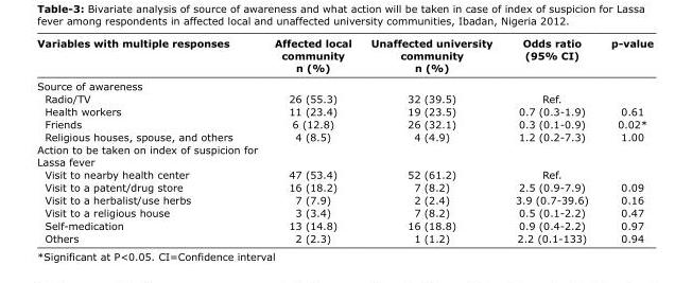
<table><thead><tr><td>Variables with multiple responses</td><td>Affected local community n (%)</td><td>Unaffected university community n (%)</td><td>Odds ratio (95% CI)</td><td>p-value</td></tr></thead><tbody><tr><td colspan="5">Source of awareness</td></tr><tr><td>Radio/TV</td><td>26 (55.3)</td><td>32 (39.5)</td><td>Ref.</td><td></td></tr><tr><td>Health workers</td><td>11 (23.4)</td><td>19 (23.5)</td><td>0.7 (0.3-1.9)</td><td>0.61</td></tr><tr><td>Friends</td><td>6 (12.8)</td><td>26 (32.1)</td><td>0.3 (0.1-0.9)</td><td>0.02*</td></tr><tr><td>Religious houses, spouse, and others</td><td>4 (8.5)</td><td>4 (4.9)</td><td>1.2 (0.2-7.3)</td><td>1.00</td></tr><tr><td colspan="5">Action to be taken on index of suspicion for Lassa fever</td></tr><tr><td>Visit to nearby health center</td><td>47 (53.4)</td><td>52 (61.2)</td><td>Ref.</td><td></td></tr><tr><td>Visit to a patent/drug store</td><td>16 (18.2)</td><td>7 (8.2)</td><td>2.5 (0.9-7.9)</td><td>0.09</td></tr><tr><td>Visit to a herbalist/use herbs</td><td>7 (7.9)</td><td>2 (2.4)</td><td>3.9 (0.7-39.6)</td><td>0.16</td></tr><tr><td>Visit to a religious house</td><td>3 (3.4)</td><td>7 (8.2)</td><td>0.5 (0.1-2.2)</td><td>0.47</td></tr><tr><td>Self-medication</td><td>13 (14.8)</td><td>16 (18.8)</td><td>0.9 (0.4-2.2)</td><td>0.97</td></tr><tr><td>Others</td><td>2 (2.3)</td><td>1 (1.2)</td><td>2.2 (0.1-133)</td><td>0.94</td></tr></tbody></table>